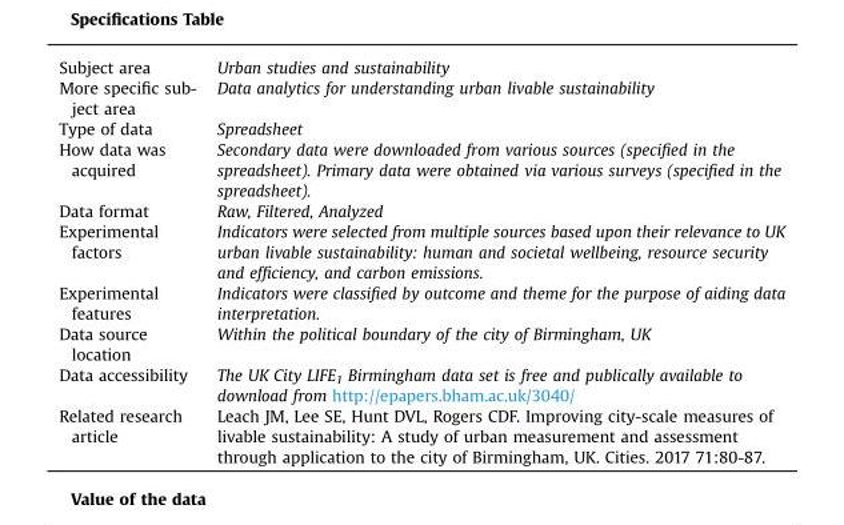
<table><tbody><tr><td>Subject area</td><td>Urban studies and sustainability</td></tr><tr><td>More specific sub- ject area</td><td>Data analytics for understanding urban livable sustainability</td></tr><tr><td>Type of data</td><td>Spreadsheet</td></tr><tr><td>How data was acquired</td><td>Secondary data were downloaded from various sources (specified in the spreadsheet). Primary data were obtained via various surveys (specified in the spreadsheet).</td></tr><tr><td>Data format</td><td>Raw, Filtered, Analyzed</td></tr><tr><td>Experimental factors</td><td>Indicators were selected from multiple sources based upon their relevance to UK urban livable sustainability: human and societal wellbeing, resource security and efficiency, and carbon emissions.</td></tr><tr><td>Experimental features</td><td>Indicators were classified by outcome and theme for the purpose of aiding data interpretation.</td></tr><tr><td>Data source location</td><td>Within the political boundary of the city of Birmingham, UK</td></tr><tr><td>Data accessibility</td><td>The UK City LIFE<sub>1</sub> Birmingham data set is free and publically available to download from http://epapers.bham.ac.uk/3040/</td></tr><tr><td>Related research article</td><td>Leach JM, Lee SE, Hunt DVL, Rogers CDF. Improving city-scale measures of livable sustainability: A study of urban measurement and assessment through application to the city of Birmingham, UK. Cities. 2017 71:80-87.</td></tr></tbody></table>